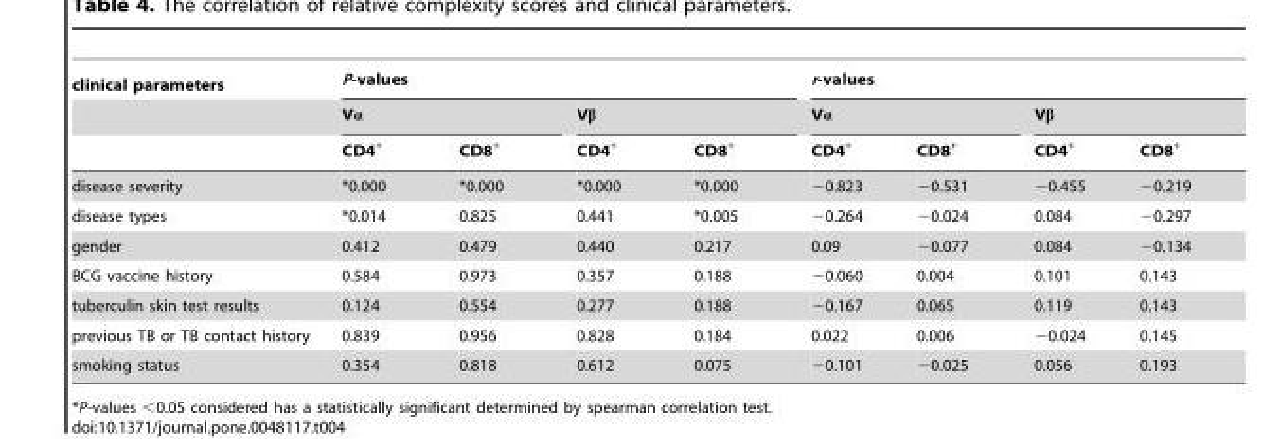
<table><thead><tr><td rowspan="3">clinical parameters</td><td colspan="4">P-values</td><td colspan="4">r-values</td></tr><tr><td colspan="2">Vα</td><td colspan="2">Vβ</td><td colspan="2">Vα</td><td colspan="2">Vβ</td></tr><tr><td>CD4<sup>+</sup></td><td>CD8<sup>+</sup></td><td>CD4<sup>+</sup></td><td>CD8<sup>+</sup></td><td>CD4<sup>+</sup></td><td>CD8<sup>+</sup></td><td>CD4<sup>+</sup></td><td>CD8<sup>+</sup></td></tr></thead><tbody><tr><td>disease severity</td><td>*0.000</td><td>*0.000</td><td>*0.000</td><td>*0.000</td><td>−0.823</td><td>−0.531</td><td>−0.455</td><td>−0.219</td></tr><tr><td>disease types</td><td>*0.014</td><td>0.825</td><td>0.441</td><td>*0.005</td><td>−0.264</td><td>−0.024</td><td>0.084</td><td>−0.297</td></tr><tr><td>gender</td><td>0.412</td><td>0.479</td><td>0.440</td><td>0.217</td><td>0.09</td><td>−0.077</td><td>0.084</td><td>−0.134</td></tr><tr><td>BCG vaccine history</td><td>0.584</td><td>0.973</td><td>0.357</td><td>0.188</td><td>−0.060</td><td>0.004</td><td>0.101</td><td>0.143</td></tr><tr><td>tuberculin skin test results</td><td>0.124</td><td>0.554</td><td>0.277</td><td>0.188</td><td>−0.167</td><td>0.065</td><td>0.119</td><td>0.143</td></tr><tr><td>previous TB or TB contact history</td><td>0.839</td><td>0.956</td><td>0.828</td><td>0.184</td><td>0.022</td><td>0.006</td><td>−0.024</td><td>0.145</td></tr><tr><td>smoking status</td><td>0.354</td><td>0.818</td><td>0.612</td><td>0.075</td><td>−0.101</td><td>−0.025</td><td>0.056</td><td>0.193</td></tr></tbody></table>